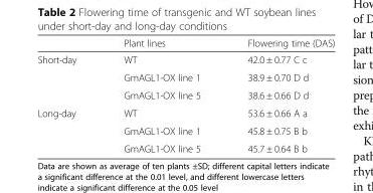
<table><thead><tr><td></td><td>Plant lines</td><td>Flowering time (DAS)</td></tr></thead><tbody><tr><td rowspan="3">Short-day</td><td>WT</td><td>42.0 ± 0.77 C c</td></tr><tr><td>GmAGL1-OX line 1</td><td>38.9 ± 0.70 D d</td></tr><tr><td>GmAGL1-OX line 5</td><td>38.6 ± 0.66 D d</td></tr><tr><td rowspan="3">Long-day</td><td>WT</td><td>53.6 ± 0.66 A a</td></tr><tr><td>GmAGL1-OX line 1</td><td>45.8 ± 0.75 B b</td></tr><tr><td>GmAGL1-OX line 5</td><td>45.7 ± 0.64 B b</td></tr></tbody></table>